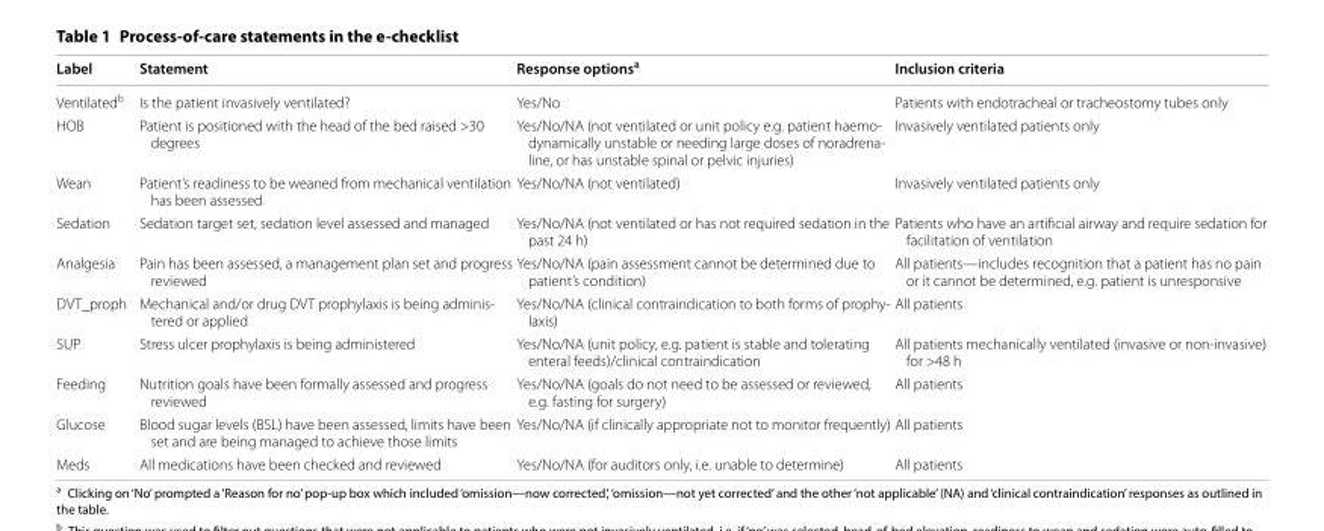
<table><thead><tr><td>Label</td><td>Statement</td><td>Response options<sup>a</sup></td><td>Inclusion criteria</td></tr></thead><tbody><tr><td>Ventilated<sup>b</sup></td><td>Is the patient invasively ventilated?</td><td>Yes/No</td><td>Patients with endotracheal or tracheostomy tubes only</td></tr><tr><td>HOB</td><td>Patient is positioned with the head of the bed raised &gt;30 degrees</td><td>Yes/No/NA (not ventilated or unit policy e.g. patient haemo- dynamically unstable or needing large doses of noradrena- line, or has unstable spinal or pelvic injuries)</td><td>Invasively ventilated patients only</td></tr><tr><td>Wean</td><td>Patient’s readiness to be weaned from mechanical ventilation has been assessed</td><td>Yes/No/NA (not ventilated)</td><td>Invasively ventilated patients only</td></tr><tr><td>Sedation</td><td>Sedation target set, sedation level assessed and managed</td><td>Yes/No/NA (not ventilated or has not required sedation in the past 24 h)</td><td>Patients who have an artificial airway and require sedation for facilitation of ventilation</td></tr><tr><td>Analgesia</td><td>Pain has been assessed, a management plan set and progress reviewed</td><td>Yes/No/NA (pain assessment cannot be determined due to patient’s condition)</td><td>All patients—includes recognition that a patient has no pain or it cannot be determined, e.g. patient is unresponsive</td></tr><tr><td>DVT_proph</td><td>Mechanical and/or drug DVT prophylaxis is being adminis- tered or applied</td><td>Yes/No/NA (clinical contraindication to both forms of prophy- laxis)</td><td>All patients</td></tr><tr><td>SUP</td><td>Stress ulcer prophylaxis is being administered</td><td>Yes/No/NA (unit policy, e.g. patient is stable and tolerating enteral feeds)/clinical contraindication</td><td>All patients mechanically ventilated (invasive or non-invasive) for &gt;48 h</td></tr><tr><td>Feeding</td><td>Nutrition goals have been formally assessed and progress reviewed</td><td>Yes/No/NA (goals do not need to be assessed or reviewed, e.g. fasting for surgery)</td><td>All patients</td></tr><tr><td>Glucose</td><td>Blood sugar levels (BSL) have been assessed, limits have been set and are being managed to achieve those limits</td><td>Yes/No/NA (if clinically appropriate not to monitor frequently)</td><td>All patients</td></tr><tr><td>Meds</td><td>All medications have been checked and reviewed</td><td>Yes/No/NA (for auditors only, i.e. unable to determine)</td><td>All patients</td></tr></tbody></table>